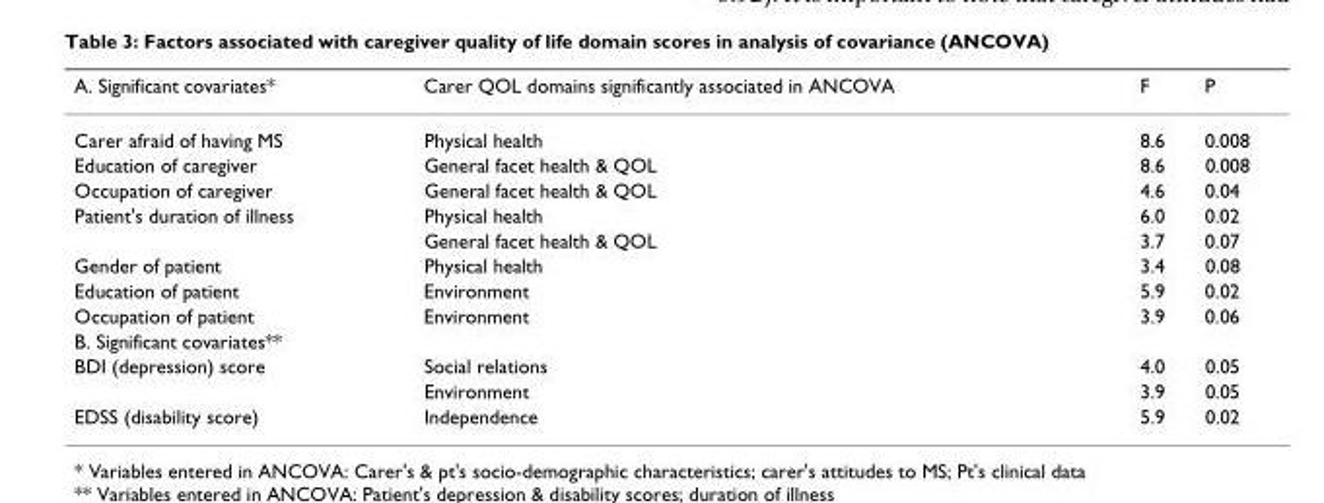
<table><thead><tr><td>A. Significant covariates*</td><td>Carer QOL domains significantly associated in ANCOVA</td><td>F</td><td>P</td></tr></thead><tbody><tr><td>Carer afraid of having MS</td><td>Physical health</td><td>8.6</td><td>0.008</td></tr><tr><td>Education of caregiver</td><td>General facet health &amp; QOL</td><td>8.6</td><td>0.008</td></tr><tr><td>Occupation of caregiver</td><td>General facet health &amp; QOL</td><td>4.6</td><td>0.04</td></tr><tr><td rowspan="2">Patient&#x27;s duration of illness</td><td>Physical health</td><td>6.0</td><td>0.02</td></tr><tr><td>General facet health &amp; QOL</td><td>3.7</td><td>0.07</td></tr><tr><td>Gender of patient</td><td>Physical health</td><td>3.4</td><td>0.08</td></tr><tr><td>Education of patient</td><td>Environment</td><td>5.9</td><td>0.02</td></tr><tr><td>Occupation of patient</td><td>Environment</td><td>3.9</td><td>0.06</td></tr><tr><td colspan="4">B. Significant covariates**</td></tr><tr><td rowspan="2">BDI (depression) score</td><td>Social relations</td><td>4.0</td><td>0.05</td></tr><tr><td>Environment</td><td>3.9</td><td>0.05</td></tr><tr><td>EDSS (disability score)</td><td>Independence</td><td>5.9</td><td>0.02</td></tr></tbody></table>